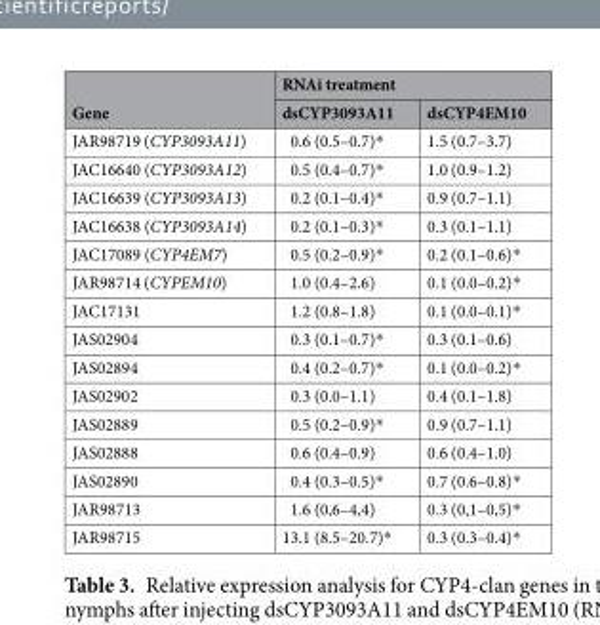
<table><thead><tr><td rowspan="2">Gene</td><td colspan="2">RNAi treatment</td></tr><tr><td>dsCYP3093A11</td><td>dsCYP4EM10</td></tr></thead><tbody><tr><td>JAR98719 (CYP3093A11)</td><td>0.6 (0.5–0.7)*</td><td>1.5 (0.7–3.7)</td></tr><tr><td>JAC16640 (CYP3093A12)</td><td>0.5 (0.4–0.7)*</td><td>1.0 (0.9–1.2)</td></tr><tr><td>JAC16639 (CYP3093A13)</td><td>0.2 (0.1–0.4)*</td><td>0.9 (0.7–1.1)</td></tr><tr><td>JAC16638 (CYP3093A14)</td><td>0.2 (0.1–0.3)*</td><td>0.3 (0.1–1.1)</td></tr><tr><td>JAC17089 (CYP4EM7)</td><td>0.5 (0.2–0.9)*</td><td>0.2 (0.1–0.6)*</td></tr><tr><td>JAR98714 (CYPEM10)</td><td>1.0 (0.4–2.6)</td><td>0.1 (0.0–0.2)*</td></tr><tr><td>JAC17131</td><td>1.2 (0.8–1.8)</td><td>0.1 (0.0–0.1)*</td></tr><tr><td>JAS02904</td><td>0.3 (0.1–0.7)*</td><td>0.3 (0.1–0.6)</td></tr><tr><td>JAS02894</td><td>0.4 (0.2–0.7)*</td><td>0.1 (0.0–0.2)*</td></tr><tr><td>JAS02902</td><td>0.3 (0.0–1.1)</td><td>0.4 (0.1–1.8)</td></tr><tr><td>JAS02889</td><td>0.5 (0.2–0.9)*</td><td>0.9 (0.7–1.1)</td></tr><tr><td>JAS02888</td><td>0.6 (0.4–0.9)</td><td>0.6 (0.4–1.0)</td></tr><tr><td>JAS02890</td><td>0.4 (0.3–0.5)*</td><td>0.7 (0.6–0.8)*</td></tr><tr><td>JAR98713</td><td>1.6 (0,6–4,4)</td><td>0.3 (0,1–0,5)*</td></tr><tr><td>JAR98715</td><td>13.1 (8.5–20.7)*</td><td>0.3 (0.3–0.4)*</td></tr></tbody></table>